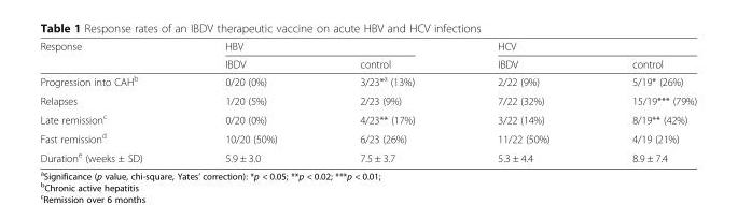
<table><thead><tr><td rowspan="2">Response</td><td colspan="2">HBV</td><td colspan="2">HCV</td></tr><tr><td>IBDV</td><td>control</td><td>IBDV</td><td>control</td></tr></thead><tbody><tr><td>Progression into CAH<sup>b</sup></td><td>0/20 (0%)</td><td>3/23*<sup>a</sup> (13%)</td><td>2/22 (9%)</td><td>5/19* (26%)</td></tr><tr><td>Relapses</td><td>1/20 (5%)</td><td>2/23 (9%)</td><td>7/22 (32%)</td><td>15/19*** (79%)</td></tr><tr><td>Late remission<sup>c</sup></td><td>0/20 (0%)</td><td>4/23** (17%)</td><td>3/22 (14%)</td><td>8/19** (42%)</td></tr><tr><td>Fast remission<sup>d</sup></td><td>10/20 (50%)</td><td>6/23 (26%)</td><td>11/22 (50%)</td><td>4/19 (21%)</td></tr><tr><td>Duration<sup>e</sup> (weeks ± SD)</td><td>5.9 ± 3.0</td><td>7.5 ± 3.7</td><td>5.3 ± 4.4</td><td>8.9 ± 7.4</td></tr></tbody></table>